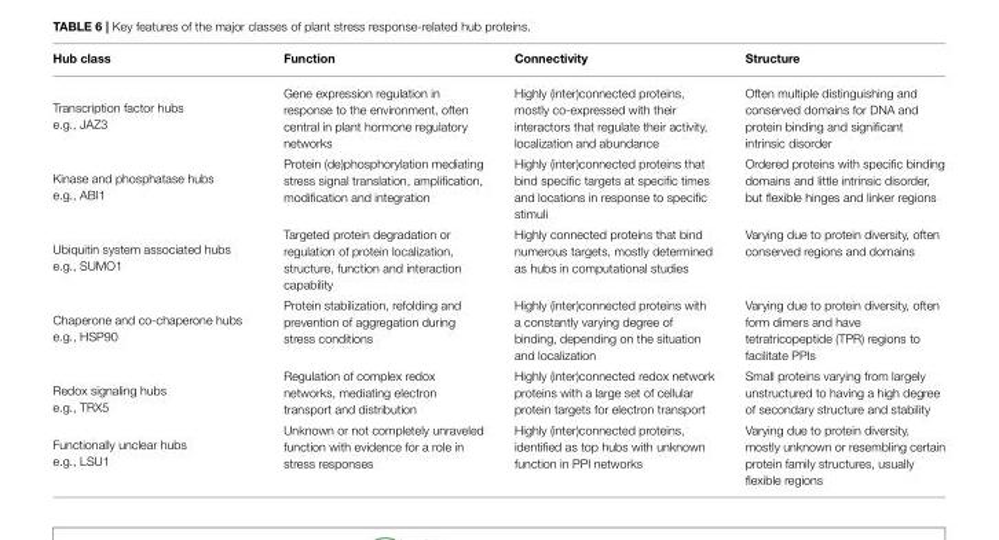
<table><thead><tr><td>Hub class</td><td>Function</td><td>Connectivity</td><td>Structure</td></tr></thead><tbody><tr><td>Transcription factor hubs e.g., JAZ3</td><td>Gene expression regulation in response to the environment, often central in plant hormone regulatory networks</td><td>Highly (inter)connected proteins, mostly co-expressed with their interactors that regulate their activity, localization and abundance</td><td>Often multiple distinguishing and conserved domains for DNA and protein binding and significant intrinsic disorder</td></tr><tr><td>Kinase and phosphatase hubs e.g., ABI1</td><td>Protein (de)phosphorylation mediating stress signal translation, amplification, modification and integration</td><td>Highly (inter)connected proteins that bind specific targets at specific times and locations in response to specific stimuli</td><td>Ordered proteins with specific binding domains and little intrinsic disorder, but flexible hinges and linker regions</td></tr><tr><td>Ubiquitin system associated hubs e.g., SUMO1</td><td>Targeted protein degradation or regulation of protein localization, structure, function and interaction capability</td><td>Highly connected proteins that bind numerous targets, mostly determined as hubs in computational studies</td><td>Varying due to protein diversity, often conserved regions and domains</td></tr><tr><td>Chaperone and co-chaperone hubs e.g., HSP90</td><td>Protein stabilization, refolding and prevention of aggregation during stress conditions</td><td>Highly (inter)connected proteins with a constantly varying degree of binding, depending on the situation and localization</td><td>Varying due to protein diversity, often form dimers and have tetratricopeptide (TPR) regions to facilitate PPIs</td></tr><tr><td>Redox signaling hubs e.g., TRX5</td><td>Regulation of complex redox networks, mediating electron transport and distribution</td><td>Highly (inter)connected redox network proteins with a large set of cellular protein targets for electron transport</td><td>Small proteins varying from largely unstructured to having a high degree of secondary structure and stability</td></tr><tr><td>Functionally unclear hubs e.g., LSU1</td><td>Unknown or not completely unraveled function with evidence for a role in stress responses</td><td>Highly (inter)connected proteins, identified as top hubs with unknown function in PPI networks</td><td>Varying due to protein diversity, mostly unknown or resembling certain protein family structures, usually flexible regions</td></tr></tbody></table>